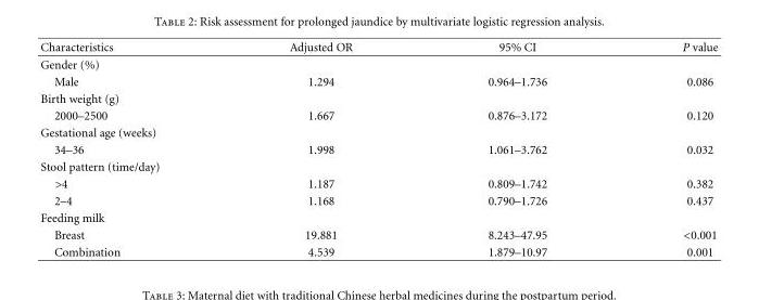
<table><thead><tr><td>Characteristics</td><td>Adjusted OR</td><td>95% CI</td><td>P value</td></tr></thead><tbody><tr><td colspan="4">Gender (%)</td></tr><tr><td>Male</td><td>1.294</td><td>0.964–1.736</td><td>0.086</td></tr><tr><td colspan="4">Birth weight (g)</td></tr><tr><td>2000–2500</td><td>1.667</td><td>0.876–3.172</td><td>0.120</td></tr><tr><td colspan="4">Gestational age (weeks)</td></tr><tr><td>34–36</td><td>1.998</td><td>1.061–3.762</td><td>0.032</td></tr><tr><td colspan="4">Stool pattern (time/day)</td></tr><tr><td>&gt;4</td><td>1.187</td><td>0.809–1.742</td><td>0.382</td></tr><tr><td>2–4</td><td>1.168</td><td>0.790–1.726</td><td>0.437</td></tr><tr><td colspan="4">Feeding milk</td></tr><tr><td>Breast</td><td>19.881</td><td>8.243–47.95</td><td>&lt;0.001</td></tr><tr><td>Combination</td><td>4.539</td><td>1.879–10.97</td><td>0.001</td></tr></tbody></table>